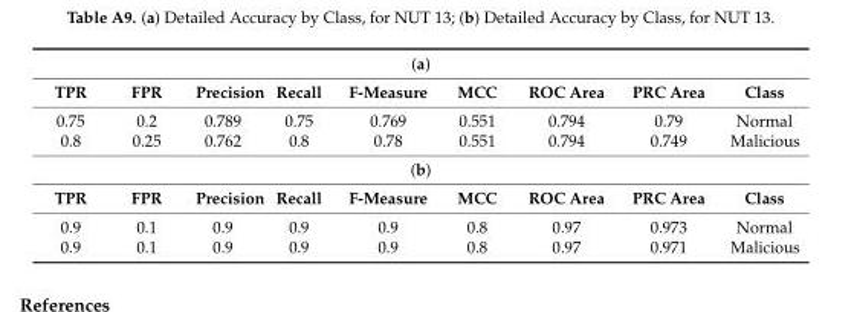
<table><tbody><tr><td colspan="9">(a)</td></tr><tr><td>TPR</td><td>FPR</td><td>Precision</td><td>Recall</td><td>F-Measure</td><td>MCC</td><td>ROC Area</td><td>PRC Area</td><td>Class</td></tr><tr><td>0.75</td><td>0.2</td><td>0.789</td><td>0.75</td><td>0.769</td><td>0.551</td><td>0.794</td><td>0.79</td><td>Normal</td></tr><tr><td>0.8</td><td>0.25</td><td>0.762</td><td>0.8</td><td>0.78</td><td>0.551</td><td>0.794</td><td>0.749</td><td>Malicious</td></tr><tr><td colspan="9">(b)</td></tr><tr><td>TPR</td><td>FPR</td><td>Precision</td><td>Recall</td><td>F-Measure</td><td>MCC</td><td>ROC Area</td><td>PRC Area</td><td>Class</td></tr><tr><td>0.9</td><td>0.1</td><td>0.9</td><td>0.9</td><td>0.9</td><td>0.8</td><td>0.97</td><td>0.973</td><td>Normal</td></tr><tr><td>0.9</td><td>0.1</td><td>0.9</td><td>0.9</td><td>0.9</td><td>0.8</td><td>0.97</td><td>0.971</td><td>Malicious</td></tr></tbody></table>